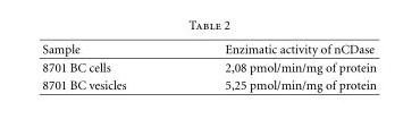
<table><thead><tr><td>Sample</td><td>Enzimatic activity of nCDase</td></tr></thead><tbody><tr><td>8701 BC cells</td><td>2,08 pmol/min/mg of protein</td></tr><tr><td>8701 BC vesicles</td><td>5,25 pmol/min/mg of protein</td></tr></tbody></table>